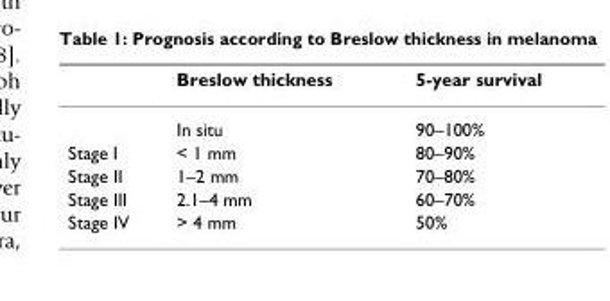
<table><thead><tr><td></td><td>Breslow thickness</td><td>5-year survival</td></tr></thead><tbody><tr><td></td><td>In situ</td><td>90–100%</td></tr><tr><td>Stage I</td><td>&lt; 1 mm</td><td>80–90%</td></tr><tr><td>Stage II</td><td>1–2 mm</td><td>70–80%</td></tr><tr><td>Stage III</td><td>2.1–4 mm</td><td>60–70%</td></tr><tr><td>Stage IV</td><td>&gt; 4 mm</td><td>50%</td></tr></tbody></table>